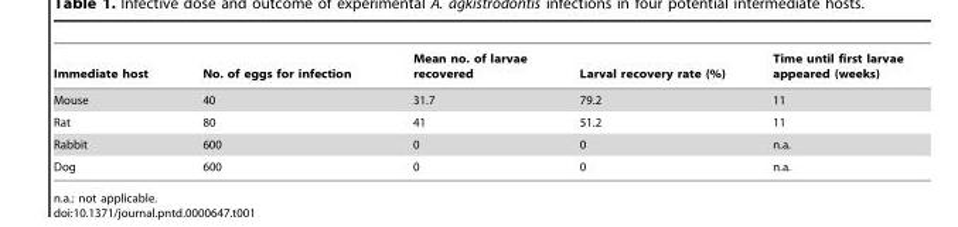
<table><thead><tr><td>Immediate host</td><td>No. of eggs for infection</td><td>Mean no. of larvae recovered</td><td>Larval recovery rate (%)</td><td>Time until first larvae appeared (weeks)</td></tr></thead><tbody><tr><td>Mouse</td><td>40</td><td>31.7</td><td>79.2</td><td>11</td></tr><tr><td>Rat</td><td>80</td><td>41</td><td>51.2</td><td>11</td></tr><tr><td>Rabbit</td><td>600</td><td>0</td><td>0</td><td>n.a.</td></tr><tr><td>Dog</td><td>600</td><td>0</td><td>0</td><td>n.a.</td></tr></tbody></table>